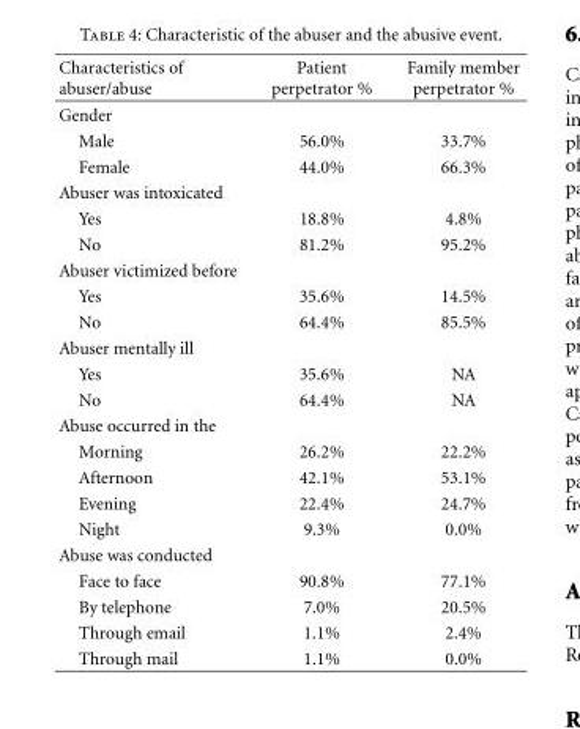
<table><thead><tr><td>Characteristics of abuser/abuse</td><td>Patient perpetrator %</td><td>Family member perpetrator %</td></tr></thead><tbody><tr><td colspan="3">Gender</td></tr><tr><td>Male</td><td>56.0%</td><td>33.7%</td></tr><tr><td>Female</td><td>44.0%</td><td>66.3%</td></tr><tr><td colspan="3">Abuser was intoxicated</td></tr><tr><td>Yes</td><td>18.8%</td><td>4.8%</td></tr><tr><td>No</td><td>81.2%</td><td>95.2%</td></tr><tr><td colspan="3">Abuser victimized before</td></tr><tr><td>Yes</td><td>35.6%</td><td>14.5%</td></tr><tr><td>No</td><td>64.4%</td><td>85.5%</td></tr><tr><td colspan="3">Abuser mentally ill</td></tr><tr><td>Yes</td><td>35.6%</td><td>NA</td></tr><tr><td>No</td><td>64.4%</td><td>NA</td></tr><tr><td colspan="3">Abuse occurred in the</td></tr><tr><td>Morning</td><td>26.2%</td><td>22.2%</td></tr><tr><td>Afternoon</td><td>42.1%</td><td>53.1%</td></tr><tr><td>Evening</td><td>22.4%</td><td>24.7%</td></tr><tr><td>Night</td><td>9.3%</td><td>0.0%</td></tr><tr><td colspan="3">Abuse was conducted</td></tr><tr><td>Face to face</td><td>90.8%</td><td>77.1%</td></tr><tr><td>By telephone</td><td>7.0%</td><td>20.5%</td></tr><tr><td>Through email</td><td>1.1%</td><td>2.4%</td></tr><tr><td>Through mail</td><td>1.1%</td><td>0.0%</td></tr></tbody></table>